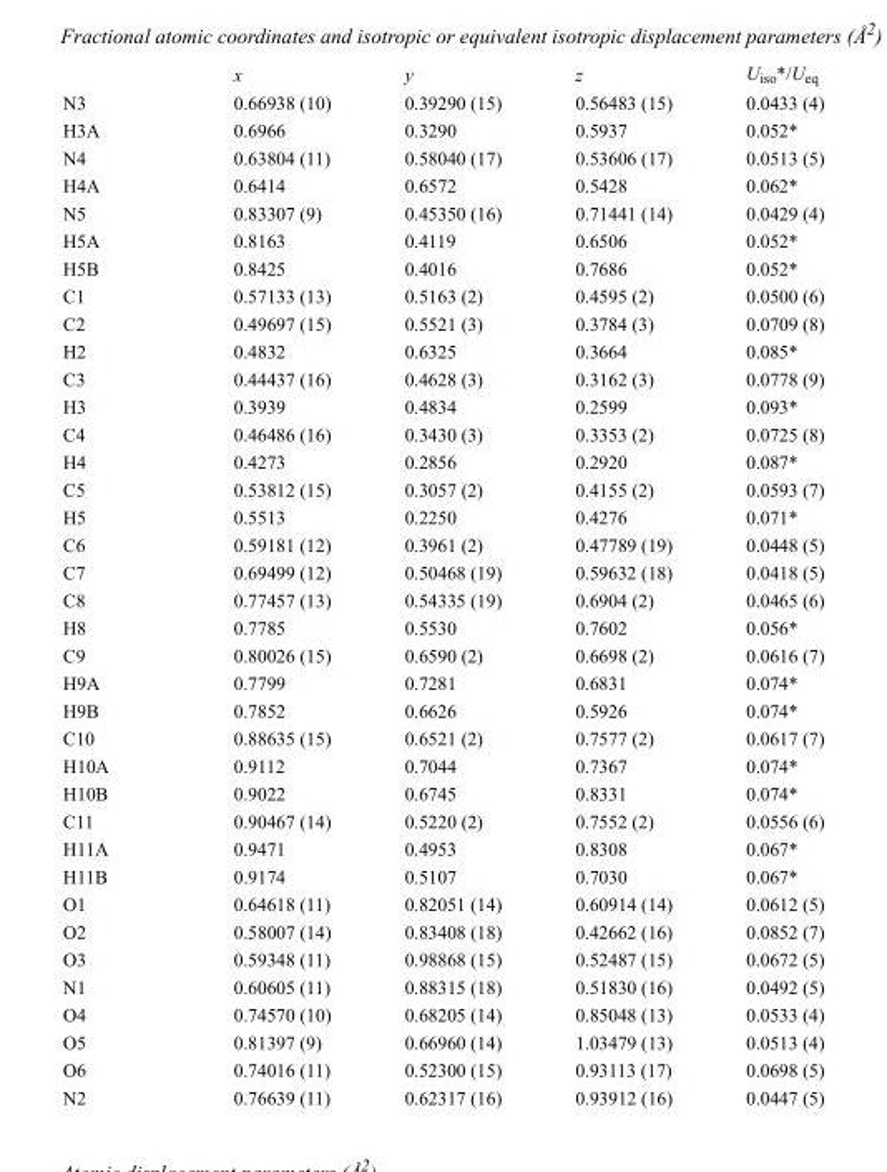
<table><thead><tr><td></td><td>x</td><td>y</td><td>z</td><td>U<sub>iso</sub>*/U<sub>eq</sub></td></tr></thead><tbody><tr><td>N3</td><td>0.66938 (10)</td><td>0.39290 (15)</td><td>0.56483 (15)</td><td>0.0433 (4)</td></tr><tr><td>H3A</td><td>0.6966</td><td>0.3290</td><td>0.5937</td><td>0.052*</td></tr><tr><td>N4</td><td>0.63804 (11)</td><td>0.58040 (17)</td><td>0.53606 (17)</td><td>0.0513 (5)</td></tr><tr><td>H4A</td><td>0.6414</td><td>0.6572</td><td>0.5428</td><td>0.062*</td></tr><tr><td>N5</td><td>0.83307 (9)</td><td>0.45350 (16)</td><td>0.71441 (14)</td><td>0.0429 (4)</td></tr><tr><td>H5A</td><td>0.8163</td><td>0.4119</td><td>0.6506</td><td>0.052*</td></tr><tr><td>H5B</td><td>0.8425</td><td>0.4016</td><td>0.7686</td><td>0.052*</td></tr><tr><td>C1</td><td>0.57133 (13)</td><td>0.5163 (2)</td><td>0.4595 (2)</td><td>0.0500 (6)</td></tr><tr><td>C2</td><td>0.49697 (15)</td><td>0.5521 (3)</td><td>0.3784 (3)</td><td>0.0709 (8)</td></tr><tr><td>H2</td><td>0.4832</td><td>0.6325</td><td>0.3664</td><td>0.085*</td></tr><tr><td>C3</td><td>0.44437 (16)</td><td>0.4628 (3)</td><td>0.3162 (3)</td><td>0.0778 (9)</td></tr><tr><td>H3</td><td>0.3939</td><td>0.4834</td><td>0.2599</td><td>0.093*</td></tr><tr><td>C4</td><td>0.46486 (16)</td><td>0.3430 (3)</td><td>0.3353 (2)</td><td>0.0725 (8)</td></tr><tr><td>H4</td><td>0.4273</td><td>0.2856</td><td>0.2920</td><td>0.087*</td></tr><tr><td>C5</td><td>0.53812 (15)</td><td>0.3057 (2)</td><td>0.4155 (2)</td><td>0.0593 (7)</td></tr><tr><td>H5</td><td>0.5513</td><td>0.2250</td><td>0.4276</td><td>0.071*</td></tr><tr><td>C6</td><td>0.59181 (12)</td><td>0.3961 (2)</td><td>0.47789 (19)</td><td>0.0448 (5)</td></tr><tr><td>C7</td><td>0.69499 (12)</td><td>0.50468 (19)</td><td>0.59632 (18)</td><td>0.0418 (5)</td></tr><tr><td>C8</td><td>0.77457 (13)</td><td>0.54335 (19)</td><td>0.6904 (2)</td><td>0.0465 (6)</td></tr><tr><td>H8</td><td>0.7785</td><td>0.5530</td><td>0.7602</td><td>0.056*</td></tr><tr><td>C9</td><td>0.80026 (15)</td><td>0.6590 (2)</td><td>0.6698 (2)</td><td>0.0616 (7)</td></tr><tr><td>H9A</td><td>0.7799</td><td>0.7281</td><td>0.6831</td><td>0.074*</td></tr><tr><td>H9B</td><td>0.7852</td><td>0.6626</td><td>0.5926</td><td>0.074*</td></tr><tr><td>C10</td><td>0.88635 (15)</td><td>0.6521 (2)</td><td>0.7577 (2)</td><td>0.0617 (7)</td></tr><tr><td>H10A</td><td>0.9112</td><td>0.7044</td><td>0.7367</td><td>0.074*</td></tr><tr><td>H10B</td><td>0.9022</td><td>0.6745</td><td>0.8331</td><td>0.074*</td></tr><tr><td>C11</td><td>0.90467 (14)</td><td>0.5220 (2)</td><td>0.7552 (2)</td><td>0.0556 (6)</td></tr><tr><td>H11A</td><td>0.9471</td><td>0.4953</td><td>0.8308</td><td>0.067*</td></tr><tr><td>H11B</td><td>0.9174</td><td>0.5107</td><td>0.7030</td><td>0.067*</td></tr><tr><td>O1</td><td>0.64618 (11)</td><td>0.82051 (14)</td><td>0.60914 (14)</td><td>0.0612 (5)</td></tr><tr><td>O2</td><td>0.58007 (14)</td><td>0.83408 (18)</td><td>0.42662 (16)</td><td>0.0852 (7)</td></tr><tr><td>O3</td><td>0.59348 (11)</td><td>0.98868 (15)</td><td>0.52487 (15)</td><td>0.0672 (5)</td></tr><tr><td>N1</td><td>0.60605 (11)</td><td>0.88315 (18)</td><td>0.51830 (16)</td><td>0.0492 (5)</td></tr><tr><td>O4</td><td>0.74570 (10)</td><td>0.68205 (14)</td><td>0.85048 (13)</td><td>0.0533 (4)</td></tr><tr><td>O5</td><td>0.81397 (9)</td><td>0.66960 (14)</td><td>1.03479 (13)</td><td>0.0513 (4)</td></tr><tr><td>O6</td><td>0.74016 (11)</td><td>0.52300 (15)</td><td>0.93113 (17)</td><td>0.0698 (5)</td></tr><tr><td>N2</td><td>0.76639 (11)</td><td>0.62317 (16)</td><td>0.93912 (16)</td><td>0.0447 (5)</td></tr></tbody></table>